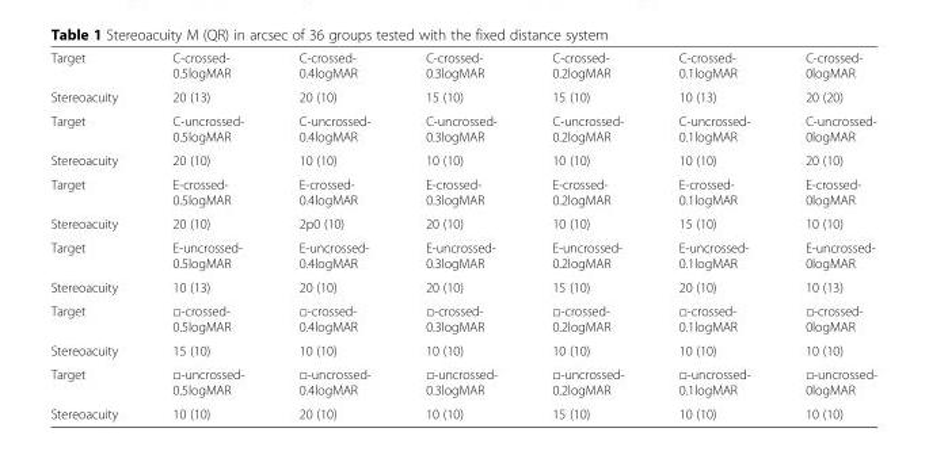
<table><tbody><tr><td>Target</td><td>C-crossed- 0.5logMAR</td><td>C-crossed- 0.4logMAR</td><td>C-crossed- 0.3logMAR</td><td>C-crossed- 0.2logMAR</td><td>C-crossed- 0.1logMAR</td><td>C-crossed- 0logMAR</td></tr><tr><td>Stereoacuity</td><td>20 (13)</td><td>20 (10)</td><td>15 (10)</td><td>15 (10)</td><td>10 (13)</td><td>20 (20)</td></tr><tr><td>Target</td><td>C-uncrossed- 0.5logMAR</td><td>C-uncrossed- 0.4logMAR</td><td>C-uncrossed- 0.3logMAR</td><td>C-uncrossed- 0.2logMAR</td><td>C-uncrossed- 0.1logMAR</td><td>C-uncrossed- 0logMAR</td></tr><tr><td>Stereoacuity</td><td>20 (10)</td><td>10 (10)</td><td>10 (10)</td><td>10 (10)</td><td>10 (10)</td><td>20 (10)</td></tr><tr><td>Target</td><td>E-crossed- 0.5logMAR</td><td>E-crossed- 0.4logMAR</td><td>E-crossed- 0.3logMAR</td><td>E-crossed- 0.2logMAR</td><td>E-crossed- 0.1logMAR</td><td>E-crossed- 0logMAR</td></tr><tr><td>Stereoacuity</td><td>20 (10)</td><td>2p0 (10)</td><td>20 (10)</td><td>10 (10)</td><td>15 (10)</td><td>10 (10)</td></tr><tr><td>Target</td><td>E-uncrossed- 0.5logMAR</td><td>E-uncrossed- 0.4logMAR</td><td>E-uncrossed- 0.3logMAR</td><td>E-uncrossed- 0.2logMAR</td><td>E-uncrossed- 0.1logMAR</td><td>E-uncrossed- 0logMAR</td></tr><tr><td>Stereoacuity</td><td>10 (13)</td><td>20 (10)</td><td>20 (10)</td><td>15 (10)</td><td>20 (10)</td><td>10 (13)</td></tr><tr><td>Target</td><td>□-crossed- 0.5logMAR</td><td>□-crossed- 0.4logMAR</td><td>□-crossed- 0.3logMAR</td><td>□-crossed- 0.2logMAR</td><td>□-crossed- 0.1logMAR</td><td>□-crossed- 0logMAR</td></tr><tr><td>Stereoacuity</td><td>15 (10)</td><td>10 (10)</td><td>10 (10)</td><td>10 (10)</td><td>10 (10)</td><td>10 (10)</td></tr><tr><td>Target</td><td>□-uncrossed- 0.5logMAR</td><td>□-uncrossed- 0.4logMAR</td><td>□-uncrossed- 0.3logMAR</td><td>□-uncrossed- 0.2logMAR</td><td>□-uncrossed- 0.1logMAR</td><td>□-uncrossed- 0logMAR</td></tr><tr><td>Stereoacuity</td><td>10 (10)</td><td>20 (10)</td><td>10 (10)</td><td>15 (10)</td><td>10 (10)</td><td>10 (10)</td></tr></tbody></table>